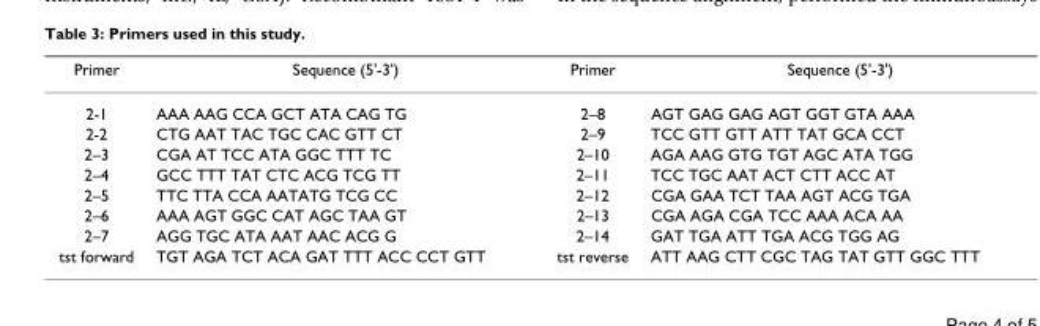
<table><thead><tr><td>Primer</td><td>Sequence (5&#x27;-3&#x27;)</td><td>Primer</td><td>Sequence (5&#x27;-3&#x27;)</td></tr></thead><tbody><tr><td>2-1</td><td>AAA AAG CCA GCT ATA CAG TG</td><td>2–8</td><td>AGT GAG GAG AGT GGT GTA AAA</td></tr><tr><td>2-2</td><td>CTG AAT TAC TGC CAC GTT CT</td><td>2–9</td><td>TCC GTT GTT ATT TAT GCA CCT</td></tr><tr><td>2–3</td><td>CGA AT TCC ATA GGC TTT TC</td><td>2–10</td><td>AGA AAG GTG TGT AGC ATA TGG</td></tr><tr><td>2–4</td><td>GCC TTT TAT CTC ACG TCG TT</td><td>2–11</td><td>TCC TGC AAT ACT CTT ACC AT</td></tr><tr><td>2–5</td><td>TTC TTA CCA AATATG TCG CC</td><td>2–12</td><td>CGA GAA TCT TAA AGT ACG TGA</td></tr><tr><td>2–6</td><td>AAA AGT GGC CAT AGC TAA GT</td><td>2–13</td><td>CGA AGA CGA TCC AAA ACA AA</td></tr><tr><td>2–7</td><td>AGG TGC ATA AAT AAC ACG G</td><td>2–14</td><td>GAT TGA ATT TGA ACG TGG AG</td></tr><tr><td>tst forward</td><td>TGT AGA TCT ACA GAT TTT ACC CCT GTT</td><td>tst reverse</td><td>ATT AAG CTT CGC TAG TAT GTT GGC TTT</td></tr></tbody></table>